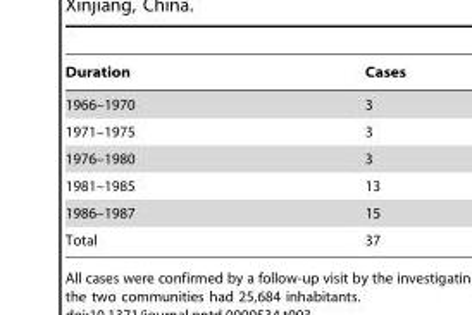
<table><thead><tr><td>Duration</td><td>Cases</td></tr></thead><tbody><tr><td>1966–1970</td><td>3</td></tr><tr><td>1971–1975</td><td>3</td></tr><tr><td>1976–1980</td><td>3</td></tr><tr><td>1981–1985</td><td>13</td></tr><tr><td>1986–1987</td><td>15</td></tr><tr><td>Total</td><td>37</td></tr></tbody></table>